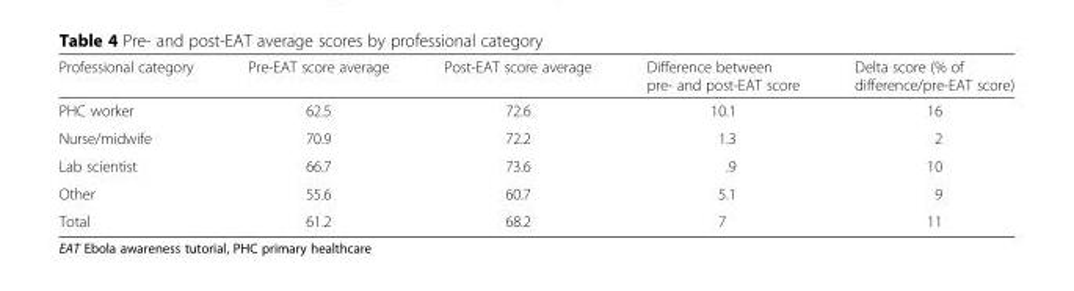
<table><thead><tr><td>Professional category</td><td>Pre-EAT score average</td><td>Post-EAT score average</td><td>Difference between pre- and post-EAT score</td><td>Delta score (% of difference/pre-EAT score)</td></tr></thead><tbody><tr><td>PHC worker</td><td>62.5</td><td>72.6</td><td>10.1</td><td>16</td></tr><tr><td>Nurse/midwife</td><td>70.9</td><td>72.2</td><td>1.3</td><td>2</td></tr><tr><td>Lab scientist</td><td>66.7</td><td>73.6</td><td>.9</td><td>10</td></tr><tr><td>Other</td><td>55.6</td><td>60.7</td><td>5.1</td><td>9</td></tr><tr><td>Total</td><td>61.2</td><td>68.2</td><td>7</td><td>11</td></tr></tbody></table>